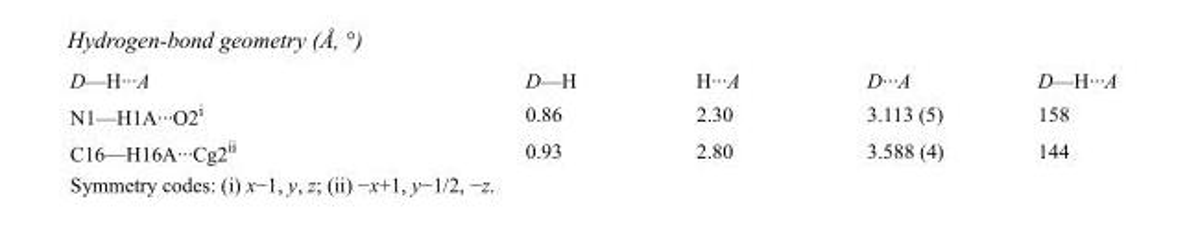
<table><tbody><tr><td>D—H···A</td><td>D—H</td><td>H···A</td><td>D···A</td><td>D—H···A</td></tr><tr><td>N1—H1A···O2<sup>i</sup></td><td>0.86</td><td>2.30</td><td>3.113 (5)</td><td>158</td></tr><tr><td>C16—H16A···Cg2<sup>ii</sup></td><td>0.93</td><td>2.80</td><td>3.588 (4)</td><td>144</td></tr></tbody></table>